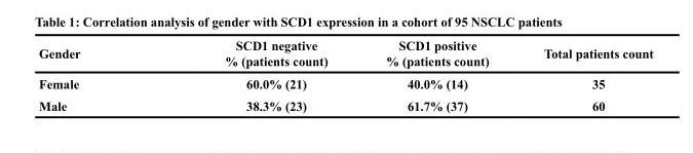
<table><thead><tr><td>Gender</td><td>SCD1 negative % (patients count)</td><td>SCD1 positive % (patients count)</td><td>Total patients count</td></tr></thead><tbody><tr><td>Female</td><td>60.0% (21)</td><td>40.0% (14)</td><td>35</td></tr><tr><td>Male</td><td>38.3% (23)</td><td>61.7% (37)</td><td>60</td></tr></tbody></table>